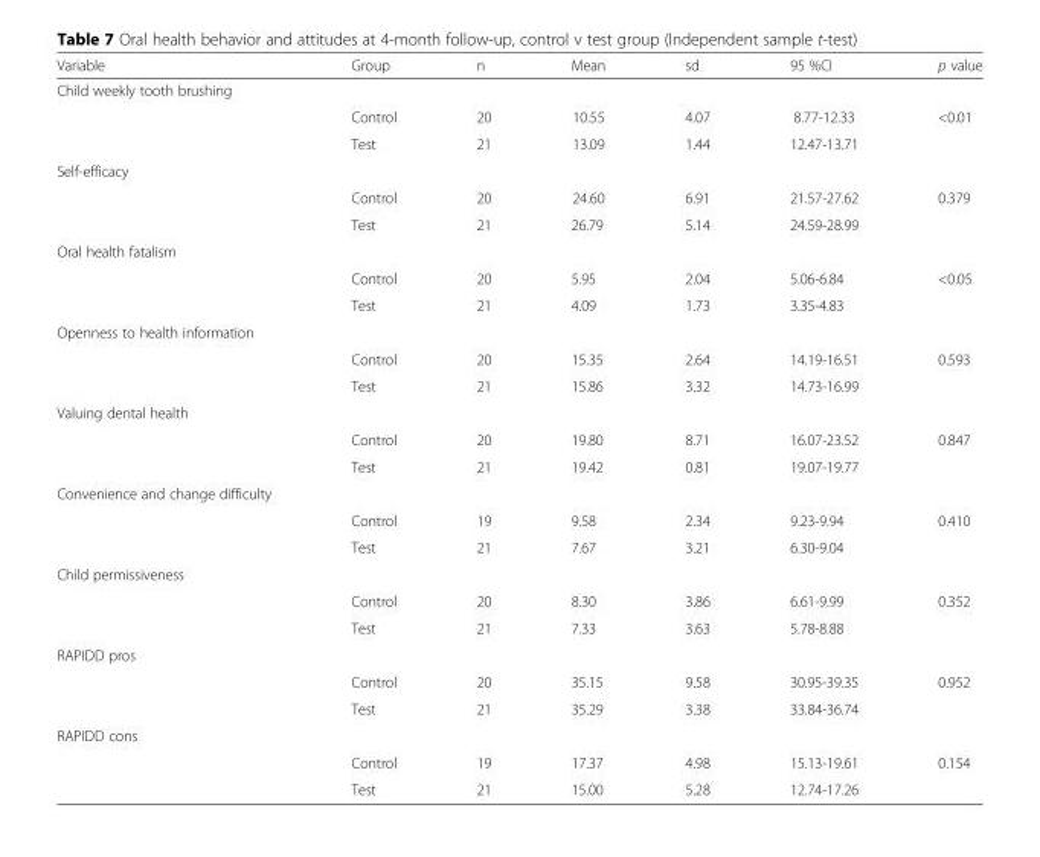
<table><thead><tr><td>Variable</td><td>Group</td><td>n</td><td>Mean</td><td>sd</td><td>95 %CI</td><td>p value</td></tr></thead><tbody><tr><td colspan="7">Child weekly tooth brushing</td></tr><tr><td></td><td>Control</td><td>20</td><td>10.55</td><td>4.07</td><td>8.77-12.33</td><td>&lt;0.01</td></tr><tr><td></td><td>Test</td><td>21</td><td>13.09</td><td>1.44</td><td>12.47-13.71</td><td></td></tr><tr><td colspan="7">Self-efficacy</td></tr><tr><td></td><td>Control</td><td>20</td><td>24.60</td><td>6.91</td><td>21.57-27.62</td><td>0.379</td></tr><tr><td></td><td>Test</td><td>21</td><td>26.79</td><td>5.14</td><td>24.59-28.99</td><td></td></tr><tr><td colspan="7">Oral health fatalism</td></tr><tr><td></td><td>Control</td><td>20</td><td>5.95</td><td>2.04</td><td>5.06-6.84</td><td>&lt;0.05</td></tr><tr><td></td><td>Test</td><td>21</td><td>4.09</td><td>1.73</td><td>3.35-4.83</td><td></td></tr><tr><td colspan="7">Openness to health information</td></tr><tr><td></td><td>Control</td><td>20</td><td>15.35</td><td>2.64</td><td>14.19-16.51</td><td>0.593</td></tr><tr><td></td><td>Test</td><td>21</td><td>15.86</td><td>3.32</td><td>14.73-16.99</td><td></td></tr><tr><td colspan="7">Valuing dental health</td></tr><tr><td></td><td>Control</td><td>20</td><td>19.80</td><td>8.71</td><td>16.07-23.52</td><td>0.847</td></tr><tr><td></td><td>Test</td><td>21</td><td>19.42</td><td>0.81</td><td>19.07-19.77</td><td></td></tr><tr><td colspan="7">Convenience and change difficulty</td></tr><tr><td></td><td>Control</td><td>19</td><td>9.58</td><td>2.34</td><td>9.23-9.94</td><td>0.410</td></tr><tr><td></td><td>Test</td><td>21</td><td>7.67</td><td>3.21</td><td>6.30-9.04</td><td></td></tr><tr><td colspan="7">Child permissiveness</td></tr><tr><td></td><td>Control</td><td>20</td><td>8.30</td><td>3.86</td><td>6.61-9.99</td><td>0.352</td></tr><tr><td></td><td>Test</td><td>21</td><td>7.33</td><td>3.63</td><td>5.78-8.88</td><td></td></tr><tr><td colspan="7">RAPIDD pros</td></tr><tr><td></td><td>Control</td><td>20</td><td>35.15</td><td>9.58</td><td>30.95-39.35</td><td>0.952</td></tr><tr><td></td><td>Test</td><td>21</td><td>35.29</td><td>3.38</td><td>33.84-36.74</td><td></td></tr><tr><td colspan="7">RAPIDD cons</td></tr><tr><td></td><td>Control</td><td>19</td><td>17.37</td><td>4.98</td><td>15.13-19.61</td><td>0.154</td></tr><tr><td></td><td>Test</td><td>21</td><td>15.00</td><td>5.28</td><td>12.74-17.26</td><td></td></tr></tbody></table>